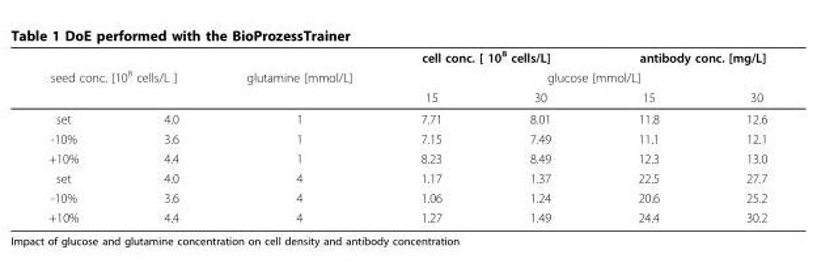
<table><thead><tr><td></td><td></td><td rowspan="3">glutamine [mmol/L]</td><td colspan="2">cell conc. [ 10<sup>8</sup> cells/L]</td><td colspan="2">antibody conc. [mg/L]</td></tr><tr><td colspan="2">seed conc. [10<sup>8</sup> cells/L ]</td><td colspan="4">glucose [mmol/L]</td></tr><tr><td></td><td></td><td>15</td><td>30</td><td>15</td><td>30</td></tr></thead><tbody><tr><td>set</td><td>4.0</td><td>1</td><td>7.71</td><td>8.01</td><td>11.8</td><td>12.6</td></tr><tr><td>-10%</td><td>3.6</td><td>1</td><td>7.15</td><td>7.49</td><td>11.1</td><td>12.1</td></tr><tr><td>+10%</td><td>4.4</td><td>1</td><td>8.23</td><td>8.49</td><td>12.3</td><td>13.0</td></tr><tr><td>set</td><td>4.0</td><td>4</td><td>1.17</td><td>1.37</td><td>22.5</td><td>27.7</td></tr><tr><td>-10%</td><td>3.6</td><td>4</td><td>1.06</td><td>1.24</td><td>20.6</td><td>25.2</td></tr><tr><td>+10%</td><td>4.4</td><td>4</td><td>1.27</td><td>1.49</td><td>24.4</td><td>30.2</td></tr></tbody></table>